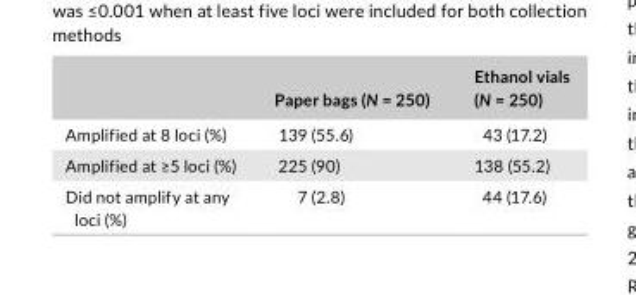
<table><thead><tr><td></td><td>Paper bags (N = 250)</td><td>Ethanol vials (N = 250)</td></tr></thead><tbody><tr><td>Amplified at 8 loci (%)</td><td>139 (55.6)</td><td>43 (17.2)</td></tr><tr><td>Amplified at ≥5 loci (%)</td><td>225 (90)</td><td>138 (55.2)</td></tr><tr><td>Did not amplify at any loci (%)</td><td>7 (2.8)</td><td>44 (17.6)</td></tr></tbody></table>